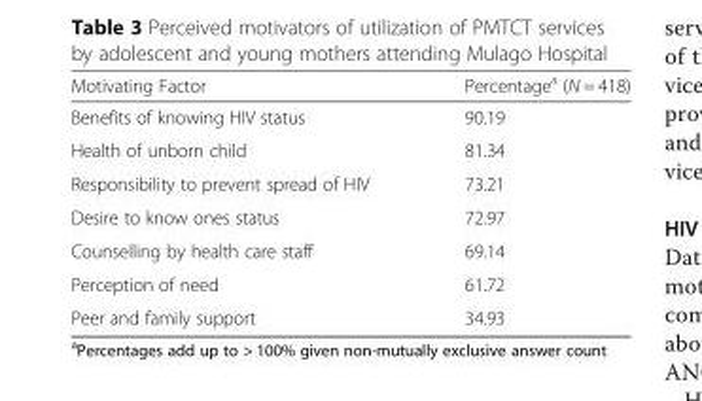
<table><thead><tr><td>Motivating Factor</td><td>Percentage<sup>a</sup> (N = 418)</td></tr></thead><tbody><tr><td>Benefits of knowing HIV status</td><td>90.19</td></tr><tr><td>Health of unborn child</td><td>81.34</td></tr><tr><td>Responsibility to prevent spread of HIV</td><td>73.21</td></tr><tr><td>Desire to know ones status</td><td>72.97</td></tr><tr><td>Counselling by health care staff</td><td>69.14</td></tr><tr><td>Perception of need</td><td>61.72</td></tr><tr><td>Peer and family support</td><td>34.93</td></tr></tbody></table>